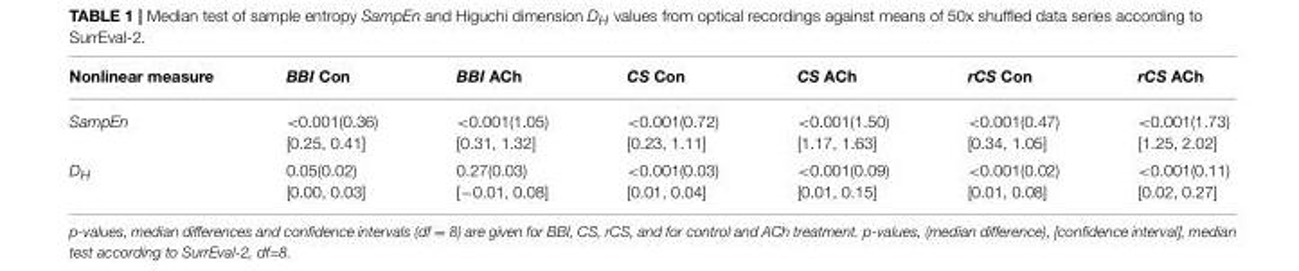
<table><thead><tr><td>Nonlinear measure</td><td>BBI Con</td><td>BBI ACh</td><td>CS Con</td><td>CS ACh</td><td>rCS Con</td><td>rCS ACh</td></tr></thead><tbody><tr><td>SampEn</td><td>&lt;0.001(0.36) [0.25, 0.41]</td><td>&lt;0.001(1.05) [0.31, 1.32]</td><td>&lt;0.001(0.72) [0.23, 1.11]</td><td>&lt;0.001(1.50) [1.17, 1.63]</td><td>&lt;0.001(0.47) [0.34, 1.05]</td><td>&lt;0.001(1.73) [1.25, 2.02]</td></tr><tr><td>DH</td><td>0.05(0.02) [0.00, 0.03]</td><td>0.27(0.03) [−0.01, 0.08]</td><td>&lt;0.001(0.03) [0.01, 0.04]</td><td>&lt;0.001(0.09) [0.01, 0.15]</td><td>&lt;0.001(0.02) [0.01, 0.08]</td><td>&lt;0.001(0.11) [0.02, 0.27]</td></tr></tbody></table>